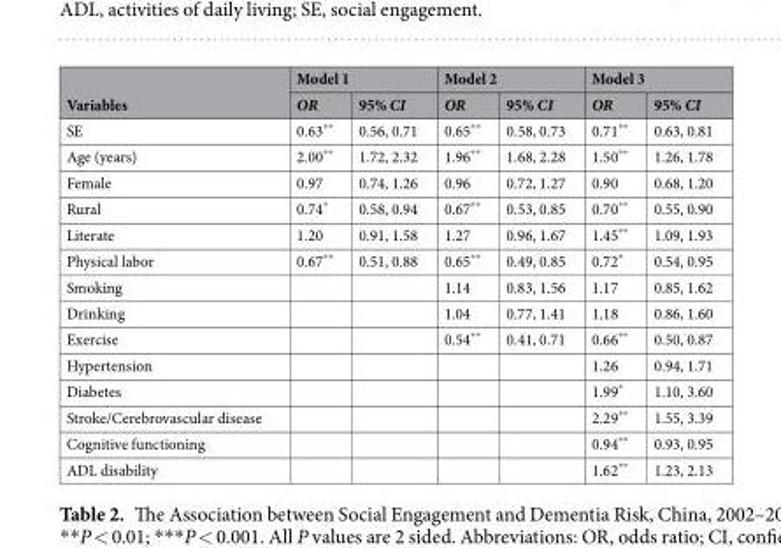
<table><thead><tr><td rowspan="2">Variables</td><td colspan="2">Model 1</td><td colspan="2">Model 2</td><td colspan="2">Model 3</td></tr><tr><td>OR</td><td>95% CI</td><td>OR</td><td>95% CI</td><td>OR</td><td>95% CI</td></tr></thead><tbody><tr><td>SE</td><td>0.63**</td><td>0.56, 0.71</td><td>0.65**</td><td>0.58, 0.73</td><td>0.71**</td><td>0.63, 0.81</td></tr><tr><td>Age (years)</td><td>2.00**</td><td>1.72, 2.32</td><td>1.96**</td><td>1.68, 2.28</td><td>1.50**</td><td>1.26, 1.78</td></tr><tr><td>Female</td><td>0.97</td><td>0.74, 1.26</td><td>0.96</td><td>0.72, 1.27</td><td>0.90</td><td>0.68, 1.20</td></tr><tr><td>Rural</td><td>0.74*</td><td>0.58, 0.94</td><td>0.67**</td><td>0.53, 0.85</td><td>0.70**</td><td>0.55, 0.90</td></tr><tr><td>Literate</td><td>1.20</td><td>0.91, 1.58</td><td>1.27</td><td>0.96, 1.67</td><td>1.45**</td><td>1.09, 1.93</td></tr><tr><td>Physical labor</td><td>0.67**</td><td>0.51, 0.88</td><td>0.65**</td><td>0.49, 0.85</td><td>0.72*</td><td>0.54, 0.95</td></tr><tr><td>Smoking</td><td></td><td></td><td>1.14</td><td>0.83, 1.56</td><td>1.17</td><td>0.85, 1.62</td></tr><tr><td>Drinking</td><td></td><td></td><td>1.04</td><td>0.77, 1.41</td><td>1.18</td><td>0.86, 1.60</td></tr><tr><td>Exercise</td><td></td><td></td><td>0.54**</td><td>0.41, 0.71</td><td>0.66**</td><td>0.50, 0.87</td></tr><tr><td>Hypertension</td><td></td><td></td><td></td><td></td><td>1.26</td><td>0.94, 1.71</td></tr><tr><td>Diabetes</td><td></td><td></td><td></td><td></td><td>1.99*</td><td>1.10, 3.60</td></tr><tr><td>Stroke/Cerebrovascular disease</td><td></td><td></td><td></td><td></td><td>2.29**</td><td>1.55, 3.39</td></tr><tr><td>Cognitive functioning</td><td></td><td></td><td></td><td></td><td>0.94**</td><td>0.93, 0.95</td></tr><tr><td>ADL disability</td><td></td><td></td><td></td><td></td><td>1.62**</td><td>1.23, 2.13</td></tr></tbody></table>